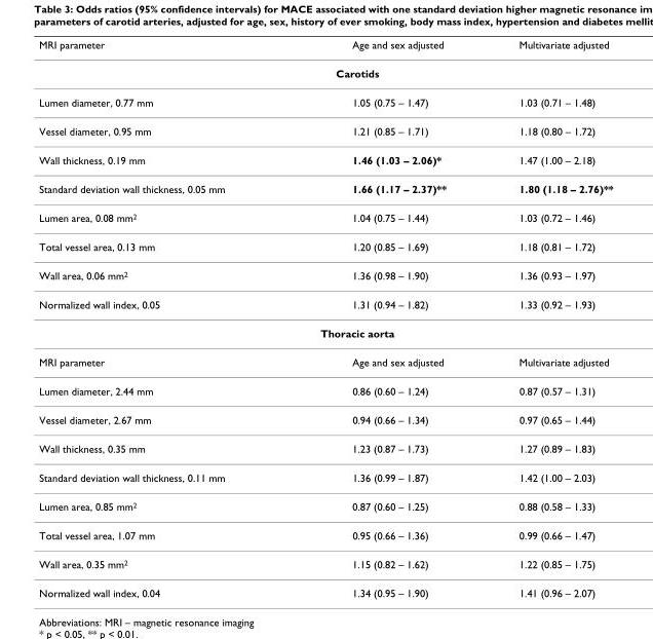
<table><thead><tr><td>MRI parameter</td><td>Age and sex adjusted</td><td>Multivariate adjusted</td></tr></thead><tbody><tr><td colspan="3">Carotids</td></tr><tr><td>Lumen diameter, 0.77 mm</td><td>1.05 (0.75 – 1.47)</td><td>1.03 (0.71 – 1.48)</td></tr><tr><td>Vessel diameter, 0.95 mm</td><td>1.21 (0.85 – 1.71)</td><td>1.18 (0.80 – 1.72)</td></tr><tr><td>Wall thickness, 0.19 mm</td><td>1.46 (1.03 – 2.06)*</td><td>1.47 (1.00 – 2.18)</td></tr><tr><td>Standard deviation wall thickness, 0.05 mm</td><td>1.66 (1.17 – 2.37)**</td><td>1.80 (1.18 – 2.76)**</td></tr><tr><td>Lumen area, 0.08 mm<sup>2</sup></td><td>1.04 (0.75 – 1.44)</td><td>1.03 (0.72 – 1.46)</td></tr><tr><td>Total vessel area, 0.13 mm</td><td>1.20 (0.85 – 1.69)</td><td>1.18 (0.81 – 1.72)</td></tr><tr><td>Wall area, 0.06 mm<sup>2</sup></td><td>1.36 (0.98 – 1.90)</td><td>1.36 (0.93 – 1.97)</td></tr><tr><td>Normalized wall index, 0.05</td><td>1.31 (0.94 – 1.82)</td><td>1.33 (0.92 – 1.93)</td></tr><tr><td colspan="3">Thoracic aorta</td></tr><tr><td>MRI parameter</td><td>Age and sex adjusted</td><td>Multivariate adjusted</td></tr><tr><td>Lumen diameter, 2.44 mm</td><td>0.86 (0.60 – 1.24)</td><td>0.87 (0.57 – 1.31)</td></tr><tr><td>Vessel diameter, 2.67 mm</td><td>0.94 (0.66 – 1.34)</td><td>0.97 (0.65 – 1.44)</td></tr><tr><td>Wall thickness, 0.35 mm</td><td>1.23 (0.87 – 1.73)</td><td>1.27 (0.89 – 1.83)</td></tr><tr><td>Standard deviation wall thickness, 0.11 mm</td><td>1.36 (0.99 – 1.87)</td><td>1.42 (1.00 – 2.03)</td></tr><tr><td>Lumen area, 0.85 mm<sup>2</sup></td><td>0.87 (0.60 – 1.25)</td><td>0.88 (0.58 – 1.33)</td></tr><tr><td>Total vessel area, 1.07 mm</td><td>0.95 (0.66 – 1.36)</td><td>0.99 (0.66 – 1.47)</td></tr><tr><td>Wall area, 0.35 mm<sup>2</sup></td><td>1.15 (0.82 – 1.62)</td><td>1.22 (0.85 – 1.75)</td></tr><tr><td>Normalized wall index, 0.04</td><td>1.34 (0.95 – 1.90)</td><td>1.41 (0.96 – 2.07)</td></tr></tbody></table>